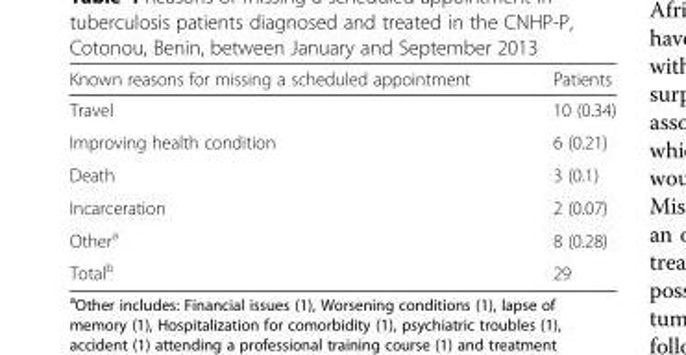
<table><thead><tr><td>Known reasons for missing a scheduled appointment</td><td>Patients</td></tr></thead><tbody><tr><td>Travel</td><td>10 (0.34)</td></tr><tr><td>Improving health condition</td><td>6 (0.21)</td></tr><tr><td>Death</td><td>3 (0.1)</td></tr><tr><td>Incarceration</td><td>2 (0.07)</td></tr><tr><td>Other<sup>a</sup></td><td>8 (0.28)</td></tr><tr><td>Total<sup>b</sup></td><td>29</td></tr></tbody></table>